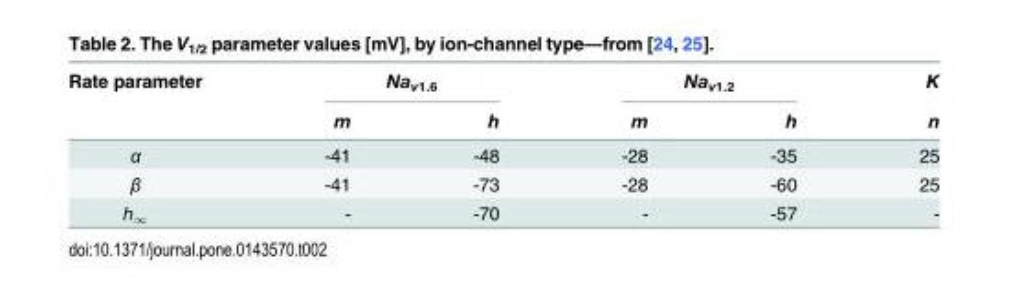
<table><thead><tr><td rowspan="2">Rate parameter</td><td colspan="2">Na<sub>v1.6</sub></td><td colspan="2">Na<sub>v1.2</sub></td><td rowspan="2">K n</td></tr><tr><td>m</td><td>h</td><td>m</td><td>h</td></tr></thead><tbody><tr><td>α</td><td>-41</td><td>-48</td><td>-28</td><td>-35</td><td>25</td></tr><tr><td>β</td><td>-41</td><td>-73</td><td>-28</td><td>-60</td><td>25</td></tr><tr><td>h<sub>∞</sub></td><td>-</td><td>-70</td><td>-</td><td>-57</td><td>-</td></tr></tbody></table>